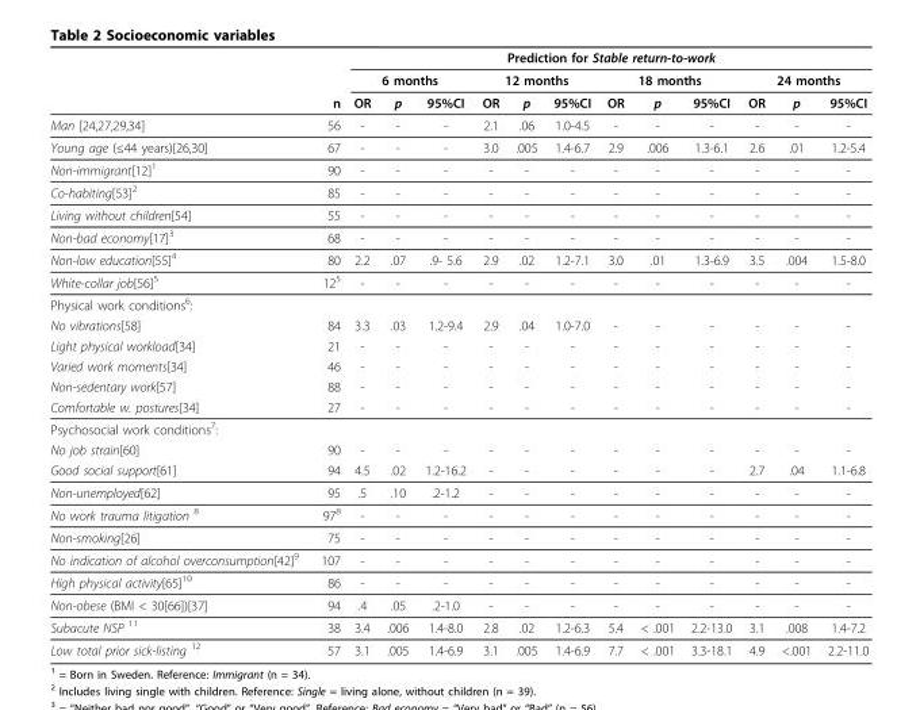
<table><thead><tr><td rowspan="3"></td><td rowspan="3">n</td><td colspan="12">Prediction for Stable return-to-work</td></tr><tr><td colspan="3">6 months</td><td colspan="3">12 months</td><td colspan="3">18 months</td><td colspan="3">24 months</td></tr><tr><td>OR</td><td>p</td><td>95%CI</td><td>OR</td><td>p</td><td>95%CI</td><td>OR</td><td>p</td><td>95%CI</td><td>OR</td><td>p</td><td>95%CI</td></tr></thead><tbody><tr><td>Man [24,27,29,34]</td><td>56</td><td>-</td><td>-</td><td>-</td><td>2.1</td><td>.06</td><td>1.0-4.5</td><td>-</td><td>-</td><td>-</td><td>-</td><td>-</td><td>-</td></tr><tr><td>Young age (≤44 years)[26,30]</td><td>67</td><td>-</td><td>-</td><td>-</td><td>3.0</td><td>.005</td><td>1.4-6.7</td><td>2.9</td><td>.006</td><td>1.3-6.1</td><td>2.6</td><td>.01</td><td>1.2-5.4</td></tr><tr><td>Non-immigrant[12]<sup>1</sup></td><td>90</td><td>-</td><td>-</td><td>-</td><td>-</td><td>-</td><td>-</td><td>-</td><td>-</td><td>-</td><td>-</td><td>-</td><td>-</td></tr><tr><td>Co-habiting[53]<sup>2</sup></td><td>85</td><td>-</td><td>-</td><td>-</td><td>-</td><td>-</td><td>-</td><td>-</td><td>-</td><td>-</td><td>-</td><td>-</td><td>-</td></tr><tr><td>Living without children[54]</td><td>55</td><td>-</td><td>-</td><td>-</td><td>-</td><td>-</td><td>-</td><td>-</td><td>-</td><td>-</td><td>-</td><td>-</td><td>-</td></tr><tr><td>Non-bad economy[17]<sup>3</sup></td><td>68</td><td>-</td><td>-</td><td>-</td><td>-</td><td>-</td><td>-</td><td>-</td><td>-</td><td>-</td><td>-</td><td>-</td><td>-</td></tr><tr><td>Non-low education[55]<sup>4</sup></td><td>80</td><td>2.2</td><td>.07</td><td>.9- 5.6</td><td>2.9</td><td>.02</td><td>1.2-7.1</td><td>3.0</td><td>.01</td><td>1.3-6.9</td><td>3.5</td><td>.004</td><td>1.5-8.0</td></tr><tr><td>White-collar job[56]<sup>5</sup></td><td>12<sup>5</sup></td><td>-</td><td>-</td><td>-</td><td>-</td><td>-</td><td>-</td><td>-</td><td>-</td><td>-</td><td>-</td><td>-</td><td>-</td></tr><tr><td colspan="14">Physical work conditions<sup>6</sup>:</td></tr><tr><td>No vibrations[58]</td><td>84</td><td>3.3</td><td>.03</td><td>1.2-9.4</td><td>2.9</td><td>.04</td><td>1.0-7.0</td><td>-</td><td>-</td><td>-</td><td>-</td><td>-</td><td>-</td></tr><tr><td>Light physical workload[34]</td><td>21</td><td>-</td><td>-</td><td>-</td><td>-</td><td>-</td><td>-</td><td>-</td><td>-</td><td>-</td><td>-</td><td>-</td><td>-</td></tr><tr><td>Varied work moments[34]</td><td>46</td><td>-</td><td>-</td><td>-</td><td>-</td><td>-</td><td>-</td><td>-</td><td>-</td><td>-</td><td>-</td><td>-</td><td>-</td></tr><tr><td>Non-sedentary work[57]</td><td>88</td><td>-</td><td>-</td><td>-</td><td>-</td><td>-</td><td>-</td><td>-</td><td>-</td><td>-</td><td>-</td><td>-</td><td>-</td></tr><tr><td>Comfortable w. postures[34]</td><td>27</td><td>-</td><td>-</td><td>-</td><td>-</td><td>-</td><td>-</td><td>-</td><td>-</td><td>-</td><td>-</td><td>-</td><td>-</td></tr><tr><td colspan="14">Psychosocial work conditions<sup>7</sup>:</td></tr><tr><td>No job strain[60]</td><td>90</td><td>-</td><td>-</td><td>-</td><td>-</td><td>-</td><td>-</td><td>-</td><td>-</td><td>-</td><td>-</td><td>-</td><td>-</td></tr><tr><td>Good social support[61]</td><td>94</td><td>4.5</td><td>.02</td><td>1.2-16.2</td><td>-</td><td>-</td><td>-</td><td>-</td><td>-</td><td>-</td><td>2.7</td><td>.04</td><td>1.1-6.8</td></tr><tr><td>Non-unemployed[62]</td><td>95</td><td>.5</td><td>.10</td><td>.2-1.2</td><td>-</td><td>-</td><td>-</td><td>-</td><td>-</td><td>-</td><td>-</td><td>-</td><td>-</td></tr><tr><td>No work trauma litigation <sup>8</sup></td><td>97<sup>8</sup></td><td>-</td><td>-</td><td>-</td><td>-</td><td>-</td><td>-</td><td>-</td><td>-</td><td>-</td><td>-</td><td>-</td><td>-</td></tr><tr><td>Non-smoking[26]</td><td>75</td><td>-</td><td>-</td><td>-</td><td>-</td><td>-</td><td>-</td><td>-</td><td>-</td><td>-</td><td>-</td><td>-</td><td>-</td></tr><tr><td>No indication of alcohol overconsumption[42]<sup>9</sup></td><td>107</td><td>-</td><td>-</td><td>-</td><td>-</td><td>-</td><td>-</td><td>-</td><td>-</td><td>-</td><td>-</td><td>-</td><td>-</td></tr><tr><td>High physical activity[65]<sup>10</sup></td><td>86</td><td>-</td><td>-</td><td>-</td><td>-</td><td>-</td><td>-</td><td>-</td><td>-</td><td>-</td><td>-</td><td>-</td><td>-</td></tr><tr><td>Non-obese (BMI &lt; 30[66])[37]</td><td>94</td><td>.4</td><td>.05</td><td>.2-1.0</td><td>-</td><td>-</td><td>-</td><td>-</td><td>-</td><td>-</td><td>-</td><td>-</td><td>-</td></tr><tr><td>Subacute NSP <sup>11</sup></td><td>38</td><td>3.4</td><td>.006</td><td>1.4-8.0</td><td>2.8</td><td>.02</td><td>1.2-6.3</td><td>5.4</td><td>&lt; .001</td><td>2.2-13.0</td><td>3.1</td><td>.008</td><td>1.4-7.2</td></tr><tr><td>Low total prior sick-listing <sup>12</sup></td><td>57</td><td>3.1</td><td>.005</td><td>1.4-6.9</td><td>3.1</td><td>.005</td><td>1.4-6.9</td><td>7.7</td><td>&lt; .001</td><td>3.3-18.1</td><td>4.9</td><td>&lt;.001</td><td>2.2-11.0</td></tr></tbody></table>